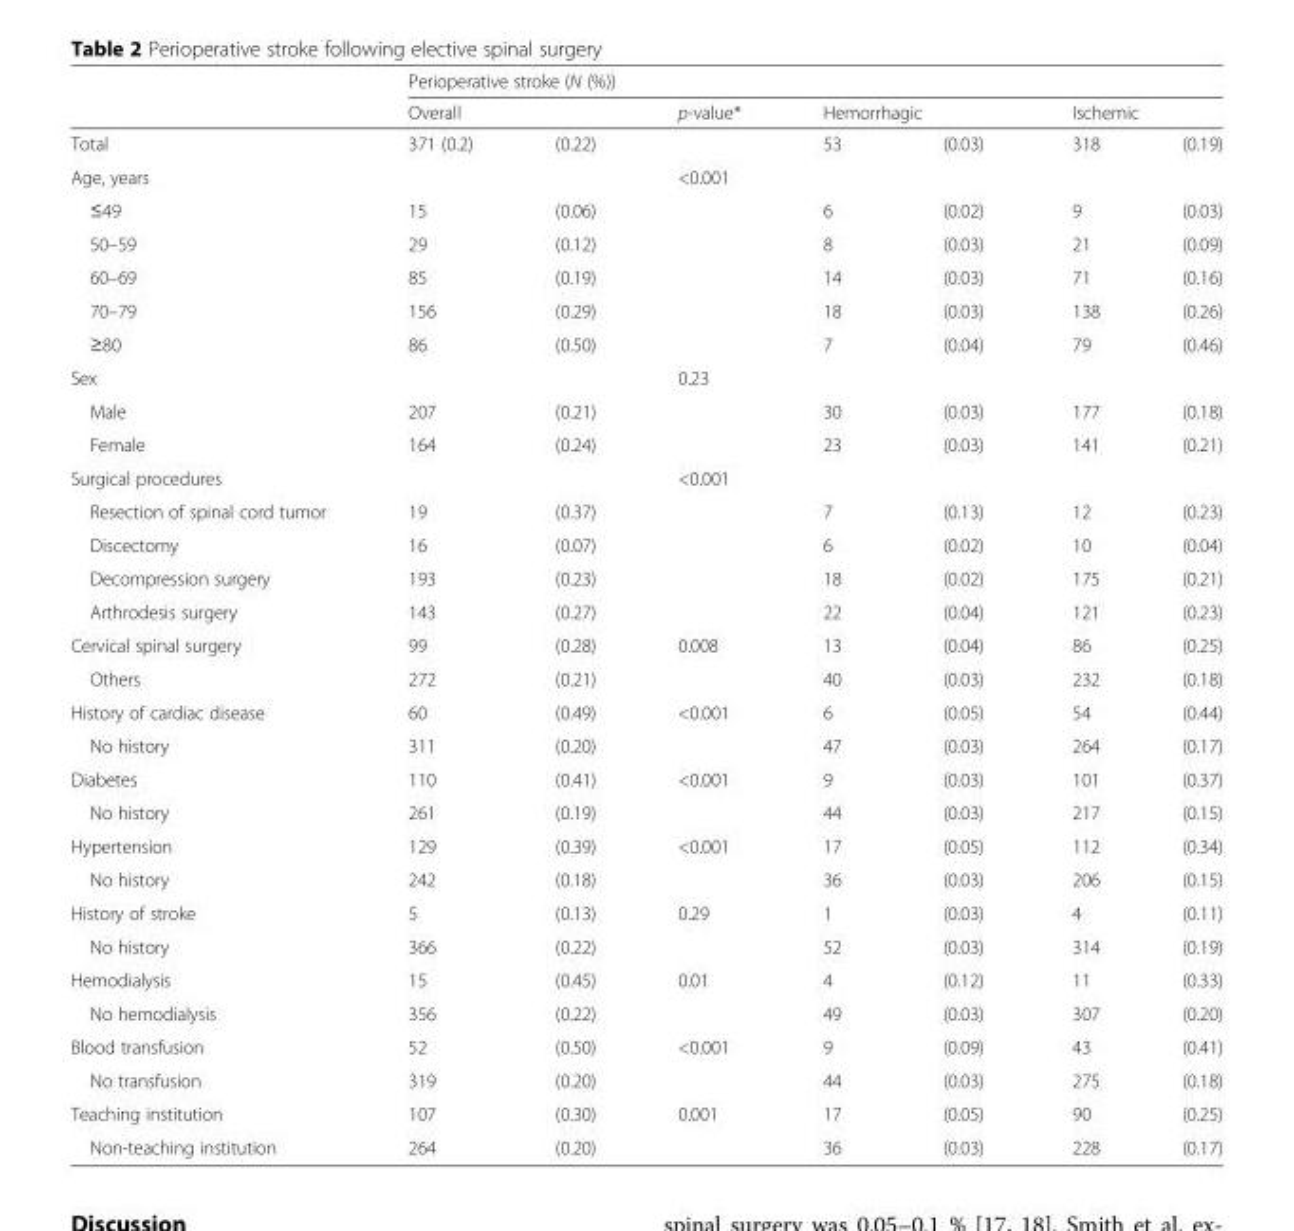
<table><thead><tr><td rowspan="3">Total</td><td colspan="7">Perioperative stroke (N (%))</td></tr><tr><td colspan="2">Overall</td><td rowspan="2">p-value*</td><td colspan="2">Hemorrhagic</td><td colspan="2">Ischemic</td></tr><tr><td>371 (0.2)</td><td>(0.22)</td><td>53</td><td>(0.03)</td><td>318</td><td>(0.19)</td></tr></thead><tbody><tr><td>Age, years</td><td></td><td></td><td>&lt;0.001</td><td></td><td></td><td></td><td></td></tr><tr><td>≤49</td><td>15</td><td>(0.06)</td><td></td><td>6</td><td>(0.02)</td><td>9</td><td>(0.03)</td></tr><tr><td>50–59</td><td>29</td><td>(0.12)</td><td></td><td>8</td><td>(0.03)</td><td>21</td><td>(0.09)</td></tr><tr><td>60–69</td><td>85</td><td>(0.19)</td><td></td><td>14</td><td>(0.03)</td><td>71</td><td>(0.16)</td></tr><tr><td>70–79</td><td>156</td><td>(0.29)</td><td></td><td>18</td><td>(0.03)</td><td>138</td><td>(0.26)</td></tr><tr><td>≥80</td><td>86</td><td>(0.50)</td><td></td><td>7</td><td>(0.04)</td><td>79</td><td>(0.46)</td></tr><tr><td>Sex</td><td></td><td></td><td>0.23</td><td></td><td></td><td></td><td></td></tr><tr><td>Male</td><td>207</td><td>(0.21)</td><td></td><td>30</td><td>(0.03)</td><td>177</td><td>(0.18)</td></tr><tr><td>Female</td><td>164</td><td>(0.24)</td><td></td><td>23</td><td>(0.03)</td><td>141</td><td>(0.21)</td></tr><tr><td>Surgical procedures</td><td></td><td></td><td>&lt;0.001</td><td></td><td></td><td></td><td></td></tr><tr><td>Resection of spinal cord tumor</td><td>19</td><td>(0.37)</td><td></td><td>7</td><td>(0.13)</td><td>12</td><td>(0.23)</td></tr><tr><td>Discectomy</td><td>16</td><td>(0.07)</td><td></td><td>6</td><td>(0.02)</td><td>10</td><td>(0.04)</td></tr><tr><td>Decompression surgery</td><td>193</td><td>(0.23)</td><td></td><td>18</td><td>(0.02)</td><td>175</td><td>(0.21)</td></tr><tr><td>Arthrodesis surgery</td><td>143</td><td>(0.27)</td><td></td><td>22</td><td>(0.04)</td><td>121</td><td>(0.23)</td></tr><tr><td>Cervical spinal surgery</td><td>99</td><td>(0.28)</td><td>0.008</td><td>13</td><td>(0.04)</td><td>86</td><td>(0.25)</td></tr><tr><td>Others</td><td>272</td><td>(0.21)</td><td></td><td>40</td><td>(0.03)</td><td>232</td><td>(0.18)</td></tr><tr><td>History of cardiac disease</td><td>60</td><td>(0.49)</td><td>&lt;0.001</td><td>6</td><td>(0.05)</td><td>54</td><td>(0.44)</td></tr><tr><td>No history</td><td>311</td><td>(0.20)</td><td></td><td>47</td><td>(0.03)</td><td>264</td><td>(0.17)</td></tr><tr><td>Diabetes</td><td>110</td><td>(0.41)</td><td>&lt;0.001</td><td>9</td><td>(0.03)</td><td>101</td><td>(0.37)</td></tr><tr><td>No history</td><td>261</td><td>(0.19)</td><td></td><td>44</td><td>(0.03)</td><td>217</td><td>(0.15)</td></tr><tr><td>Hypertension</td><td>129</td><td>(0.39)</td><td>&lt;0.001</td><td>17</td><td>(0.05)</td><td>112</td><td>(0.34)</td></tr><tr><td>No history</td><td>242</td><td>(0.18)</td><td></td><td>36</td><td>(0.03)</td><td>206</td><td>(0.15)</td></tr><tr><td>History of stroke</td><td>5</td><td>(0.13)</td><td>0.29</td><td>1</td><td>(0.03)</td><td>4</td><td>(0.11)</td></tr><tr><td>No history</td><td>366</td><td>(0.22)</td><td></td><td>52</td><td>(0.03)</td><td>314</td><td>(0.19)</td></tr><tr><td>Hemodialysis</td><td>15</td><td>(0.45)</td><td>0.01</td><td>4</td><td>(0.12)</td><td>11</td><td>(0.33)</td></tr><tr><td>No hemodialysis</td><td>356</td><td>(0.22)</td><td></td><td>49</td><td>(0.03)</td><td>307</td><td>(0.20)</td></tr><tr><td>Blood transfusion</td><td>52</td><td>(0.50)</td><td>&lt;0.001</td><td>9</td><td>(0.09)</td><td>43</td><td>(0.41)</td></tr><tr><td>No transfusion</td><td>319</td><td>(0.20)</td><td></td><td>44</td><td>(0.03)</td><td>275</td><td>(0.18)</td></tr><tr><td>Teaching institution</td><td>107</td><td>(0.30)</td><td>0.001</td><td>17</td><td>(0.05)</td><td>90</td><td>(0.25)</td></tr><tr><td>Non-teaching institution</td><td>264</td><td>(0.20)</td><td></td><td>36</td><td>(0.03)</td><td>228</td><td>(0.17)</td></tr></tbody></table>